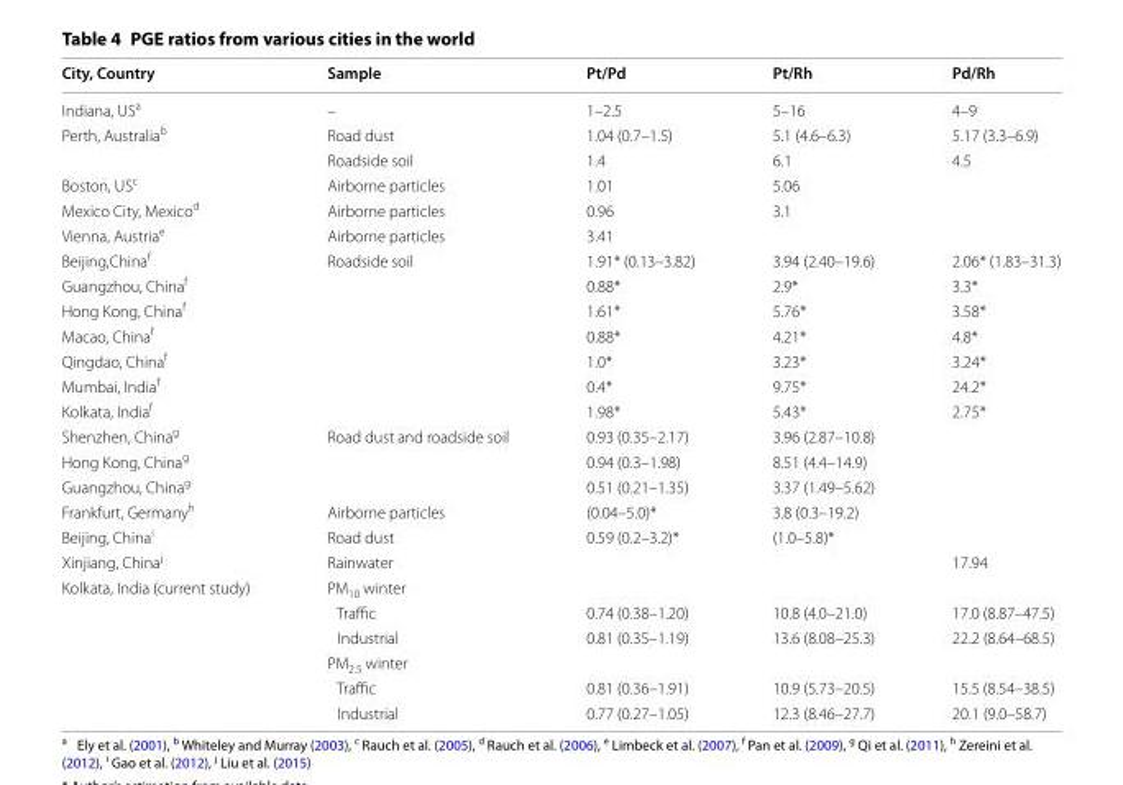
<table><thead><tr><td>City, Country</td><td>Sample</td><td>Pt/Pd</td><td>Pt/Rh</td><td>Pd/Rh</td></tr></thead><tbody><tr><td>Indiana, US<sup>a</sup></td><td>–</td><td>1–2.5</td><td>5–16</td><td>4–9</td></tr><tr><td rowspan="2">Perth, Australia<sup>b</sup></td><td>Road dust</td><td>1.04 (0.7–1.5)</td><td>5.1 (4.6–6.3)</td><td>5.17 (3.3–6.9)</td></tr><tr><td>Roadside soil</td><td>1.4</td><td>6.1</td><td>4.5</td></tr><tr><td>Boston, US<sup>c</sup></td><td>Airborne particles</td><td>1.01</td><td>5.06</td><td></td></tr><tr><td>Mexico City, Mexico<sup>d</sup></td><td>Airborne particles</td><td>0.96</td><td>3.1</td><td></td></tr><tr><td>Vienna, Austria<sup>e</sup></td><td>Airborne particles</td><td>3.41</td><td></td><td></td></tr><tr><td>Beijing,China<sup>f</sup></td><td rowspan="7">Roadside soil</td><td>1.91* (0.13–3.82)</td><td>3.94 (2.40–19.6)</td><td>2.06* (1.83–31.3)</td></tr><tr><td>Guangzhou, China<sup>f</sup></td><td>0.88*</td><td>2.9*</td><td>3.3*</td></tr><tr><td>Hong Kong, China<sup>f</sup></td><td>1.61*</td><td>5.76*</td><td>3.58*</td></tr><tr><td>Macao, China<sup>f</sup></td><td>0.88*</td><td>4.21*</td><td>4.8*</td></tr><tr><td>Qingdao, China<sup>f</sup></td><td>1.0*</td><td>3.23*</td><td>3.24*</td></tr><tr><td>Mumbai, India<sup>f</sup></td><td>0.4*</td><td>9.75*</td><td>24.2*</td></tr><tr><td>Kolkata, India<sup>f</sup></td><td>1.98*</td><td>5.43*</td><td>2.75*</td></tr><tr><td>Shenzhen, China<sup>g</sup></td><td rowspan="3">Road dust and roadside soil</td><td>0.93 (0.35–2.17)</td><td>3.96 (2.87–10.8)</td><td></td></tr><tr><td>Hong Kong, China<sup>g</sup></td><td>0.94 (0.3–1.98)</td><td>8.51 (4.4–14.9)</td><td></td></tr><tr><td>Guangzhou, China<sup>g</sup></td><td>0.51 (0.21–1.35)</td><td>3.37 (1.49–5.62)</td><td></td></tr><tr><td>Frankfurt, Germany<sup>h</sup></td><td>Airborne particles</td><td>(0.04–5.0)*</td><td>3.8 (0.3–19.2)</td><td></td></tr><tr><td>Beijing, China<sup>i</sup></td><td>Road dust</td><td>0.59 (0.2–3.2)*</td><td>(1.0–5.8)*</td><td></td></tr><tr><td>Xinjiang, China<sup>j</sup></td><td>Rainwater</td><td></td><td></td><td>17.94</td></tr><tr><td rowspan="6">Kolkata, India (current study)</td><td colspan="4">PM<sub>10</sub> winter</td></tr><tr><td>Traffic</td><td>0.74 (0.38–1.20)</td><td>10.8 (4.0–21.0)</td><td>17.0 (8.87–47.5)</td></tr><tr><td>Industrial</td><td>0.81 (0.35–1.19)</td><td>13.6 (8.08–25.3)</td><td>22.2 (8.64–68.5)</td></tr><tr><td colspan="4">PM<sub>2.5</sub> winter</td></tr><tr><td>Traffic</td><td>0.81 (0.36–1.91)</td><td>10.9 (5.73–20.5)</td><td>15.5 (8.54–38.5)</td></tr><tr><td>Industrial</td><td>0.77 (0.27–1.05)</td><td>12.3 (8.46–27.7)</td><td>20.1 (9.0–58.7)</td></tr></tbody></table>